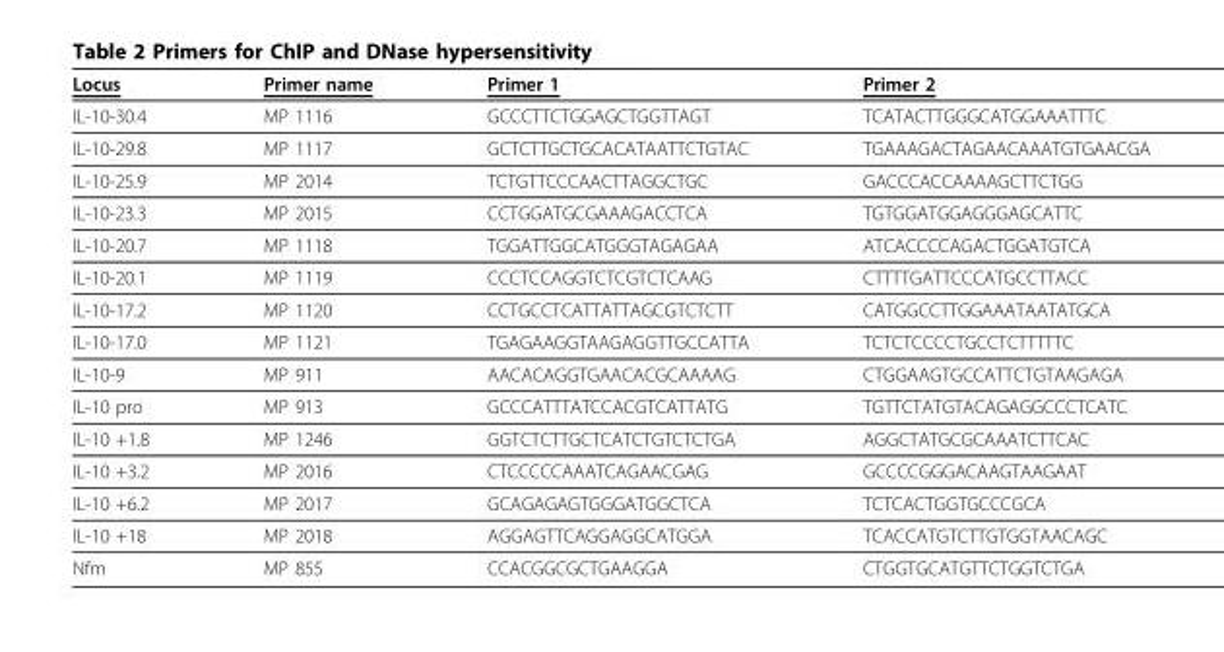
<table><thead><tr><td>Locus</td><td>Primer name</td><td>Primer 1</td><td>Primer 2</td></tr></thead><tbody><tr><td>IL-10-30.4</td><td>MP 1116</td><td>GCCCTTCTGGAGCTGGTTAGT</td><td>TCATACTTGGGCATGGAAATTTC</td></tr><tr><td>IL-10-29.8</td><td>MP 1117</td><td>GCTCTTGCTGCACATAATTCTGTAC</td><td>TGAAAGACTAGAACAAATGTGAACGA</td></tr><tr><td>IL-10-25.9</td><td>MP 2014</td><td>TCTGTTCCCAACTTAGGCTGC</td><td>GACCCACCAAAAGCTTCTGG</td></tr><tr><td>IL-10-23.3</td><td>MP 2015</td><td>CCTGGATGCGAAAGACCTCA</td><td>TGTGGATGGAGGGAGCATTC</td></tr><tr><td>IL-10-20.7</td><td>MP 1118</td><td>TGGATTGGCATGGGTAGAGAA</td><td>ATCACCCCAGACTGGATGTCA</td></tr><tr><td>IL-10-20.1</td><td>MP 1119</td><td>CCCTCCAGGTCTCGTCTCAAG</td><td>CTTTTGATTCCCATGCCTTACC</td></tr><tr><td>IL-10-17.2</td><td>MP 1120</td><td>CCTGCCTCATTATTAGCGTCTCTT</td><td>CATGGCCTTGGAAATAATATGCA</td></tr><tr><td>IL-10-17.0</td><td>MP 1121</td><td>TGAGAAGGTAAGAGGTTGCCATTA</td><td>TCTCTCCCCTGCCTCTTTTTC</td></tr><tr><td>IL-10-9</td><td>MP 911</td><td>AACACAGGTGAACACGCAAAAG</td><td>CTGGAAGTGCCATTCTGTAAGAGA</td></tr><tr><td>IL-10 pro</td><td>MP 913</td><td>GCCCATTTATCCACGTCATTATG</td><td>TGTTCTATGTACAGAGGCCCTCATC</td></tr><tr><td>IL-10 +1.8</td><td>MP 1246</td><td>GGTCTCTTGCTCATCTGTCTCTGA</td><td>AGGCTATGCGCAAATCTTCAC</td></tr><tr><td>IL-10 +3.2</td><td>MP 2016</td><td>CTCCCCCAAATCAGAACGAG</td><td>GCCCCGGGACAAGTAAGAAT</td></tr><tr><td>IL-10 +6.2</td><td>MP 2017</td><td>GCAGAGAGTGGGATGGCTCA</td><td>TCTCACTGGTGCCCGCA</td></tr><tr><td>IL-10 +18</td><td>MP 2018</td><td>AGGAGTTCAGGAGGCATGGA</td><td>TCACCATGTCTTGTGGTAACAGC</td></tr><tr><td>Nfm</td><td>MP 855</td><td>CCACGGCGCTGAAGGA</td><td>CTGGTGCATGTTCTGGTCTGA</td></tr></tbody></table>